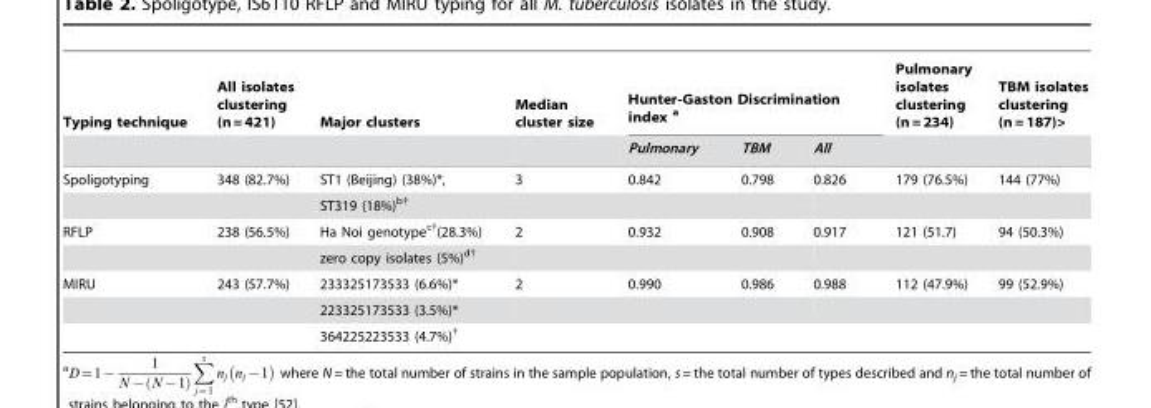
<table><thead><tr><td rowspan="2">Typing technique</td><td rowspan="2">All isolates clustering (n = 421)</td><td rowspan="2">Major clusters</td><td rowspan="2">Median cluster size</td><td colspan="3">Hunter-Gaston Discrimination index a</td><td rowspan="2">Pulmonary isolates clustering (n = 234)</td><td rowspan="2">TBM isolates clustering (n = 187)&gt;</td></tr><tr><td>Pulmonary</td><td>TBM</td><td>All</td></tr></thead><tbody><tr><td rowspan="2">Spoligotyping</td><td>348 (82.7%)</td><td>ST1 (Beijing) (38%)*,</td><td>3</td><td>0.842</td><td>0.798</td><td>0.826</td><td>179 (76.5%)</td><td>144 (77%)</td></tr><tr><td></td><td>ST319 (18%)<sup>b</sup>†</td><td></td><td></td><td></td><td></td><td></td><td></td></tr><tr><td rowspan="2">RFLP</td><td>238 (56.5%)</td><td>Ha Noi genotype<sup>c</sup>†(28.3%)</td><td>2</td><td>0.932</td><td>0.908</td><td>0.917</td><td>121 (51.7)</td><td>94 (50.3%)</td></tr><tr><td></td><td>zero copy isolates (5%)<sup>d</sup>†</td><td></td><td></td><td></td><td></td><td></td><td></td></tr><tr><td rowspan="3">MIRU</td><td>243 (57.7%)</td><td>233325173533 (6.6%)*</td><td>2</td><td>0.990</td><td>0.986</td><td>0.988</td><td>112 (47.9%)</td><td>99 (52.9%)</td></tr><tr><td></td><td>223325173533 (3.5%)*</td><td></td><td></td><td></td><td></td><td></td><td></td></tr><tr><td></td><td>364225223533 (4.7%)†</td><td></td><td></td><td></td><td></td><td></td><td></td></tr></tbody></table>